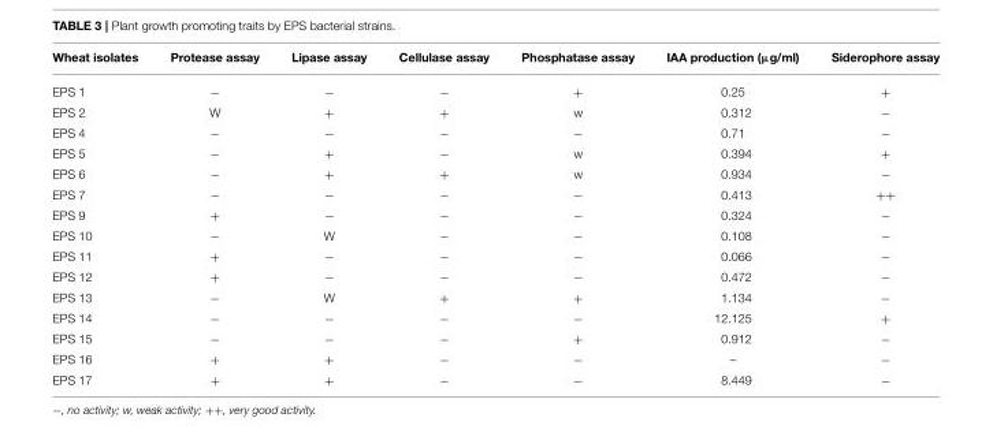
<table><thead><tr><td>Wheat isolates</td><td>Protease assay</td><td>Lipase assay</td><td>Cellulase assay</td><td>Phosphatase assay</td><td>IAA production (µg/ml)</td><td>Siderophore assay</td></tr></thead><tbody><tr><td>EPS 1</td><td>−</td><td>−</td><td>−</td><td>+</td><td>0.25</td><td>+</td></tr><tr><td>EPS 2</td><td>W</td><td>+</td><td>+</td><td>w</td><td>0.312</td><td>−</td></tr><tr><td>EPS 4</td><td>−</td><td>−</td><td>−</td><td>−</td><td>0.71</td><td>−</td></tr><tr><td>EPS 5</td><td>−</td><td>+</td><td>−</td><td>w</td><td>0.394</td><td>+</td></tr><tr><td>EPS 6</td><td>−</td><td>+</td><td>+</td><td>w</td><td>0.934</td><td>−</td></tr><tr><td>EPS 7</td><td>−</td><td>−</td><td>−</td><td>−</td><td>0.413</td><td>++</td></tr><tr><td>EPS 9</td><td>+</td><td>−</td><td>−</td><td>−</td><td>0.324</td><td>−</td></tr><tr><td>EPS 10</td><td>−</td><td>W</td><td>−</td><td>−</td><td>0.108</td><td>−</td></tr><tr><td>EPS 11</td><td>+</td><td>−</td><td>−</td><td>−</td><td>0.066</td><td>−</td></tr><tr><td>EPS 12</td><td>+</td><td>−</td><td>−</td><td>−</td><td>0.472</td><td>−</td></tr><tr><td>EPS 13</td><td>−</td><td>W</td><td>+</td><td>+</td><td>1.134</td><td>−</td></tr><tr><td>EPS 14</td><td>−</td><td>−</td><td>−</td><td>−</td><td>12.125</td><td>+</td></tr><tr><td>EPS 15</td><td>−</td><td>−</td><td>−</td><td>+</td><td>0.912</td><td>−</td></tr><tr><td>EPS 16</td><td>+</td><td>+</td><td>−</td><td>−</td><td>–</td><td>−</td></tr><tr><td>EPS 17</td><td>+</td><td>+</td><td>−</td><td>−</td><td>8.449</td><td>−</td></tr></tbody></table>